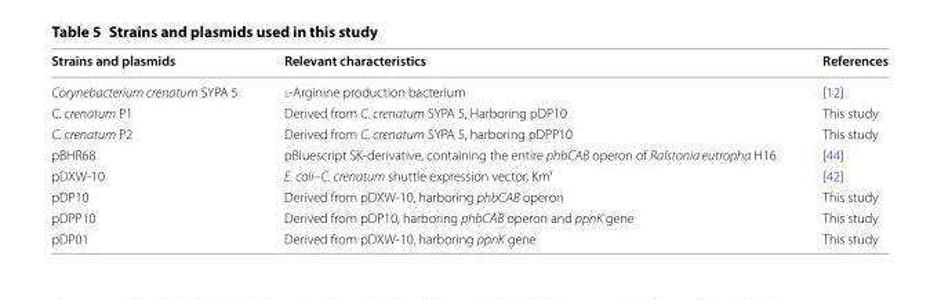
<table><thead><tr><td>Strains and plasmids</td><td>Relevant characteristics</td><td>References</td></tr></thead><tbody><tr><td>Corynebacterium crenatum SYPA 5</td><td>l-Arginine production bacterium</td><td>[12]</td></tr><tr><td>C. crenatum P1</td><td>Derived from C. crenatum SYPA 5, Harboring pDP10</td><td>This study</td></tr><tr><td>C. crenatum P2</td><td>Derived from C. crenatum SYPA 5, harboring pDPP10</td><td>This study</td></tr><tr><td>pBHR68</td><td>pBluescript SK-derivative, containing the entire phbCAB operon of Ralstonia eutropha H16</td><td>[44]</td></tr><tr><td>pDXW-10</td><td>E. coli–C. crenatum shuttle expression vector, Km<sup>r</sup></td><td>[42]</td></tr><tr><td>pDP10</td><td>Derived from pDXW-10, harboring phbCAB operon</td><td>This study</td></tr><tr><td>pDPP10</td><td>Derived from pDP10, harboring phbCAB operon and ppnK gene</td><td>This study</td></tr><tr><td>pDP01</td><td>Derived from pDXW-10, harboring ppnK gene</td><td>This study</td></tr></tbody></table>